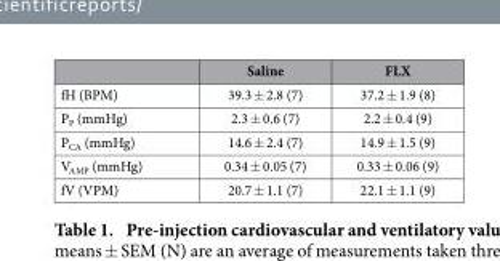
<table><thead><tr><td></td><td>Saline</td><td>FLX</td></tr></thead><tbody><tr><td>fH (BPM)</td><td>39.3 ± 2.8 (7)</td><td>37.2 ± 1.9 (8)</td></tr><tr><td>P<sub>P</sub> (mmHg)</td><td>2.3 ± 0.6 (7)</td><td>2.2 ± 0.4 (9)</td></tr><tr><td>P<sub>CA</sub> (mmHg)</td><td>14.6 ± 2.4 (7)</td><td>14.9 ± 1.5 (9)</td></tr><tr><td>V<sub>AMP</sub> (mmHg)</td><td>0.34 ± 0.05 (7)</td><td>0.33 ± 0.06 (9)</td></tr><tr><td>fV (VPM)</td><td>20.7 ± 1.1 (7)</td><td>22.1 ± 1.1 (9)</td></tr></tbody></table>